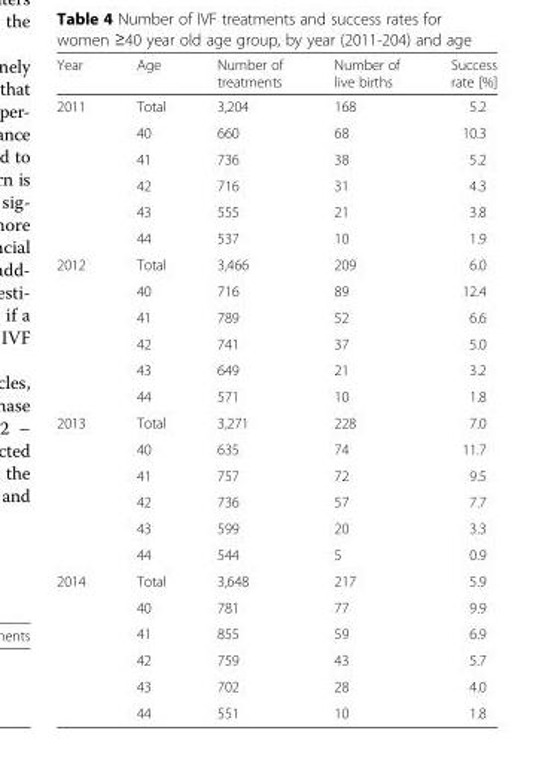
<table><thead><tr><td>Year</td><td>Age</td><td>Number of treatments</td><td>Number of live births</td><td>Success rate [%]</td></tr></thead><tbody><tr><td rowspan="6">2011</td><td>Total</td><td>3,204</td><td>168</td><td>5.2</td></tr><tr><td>40</td><td>660</td><td>68</td><td>10.3</td></tr><tr><td>41</td><td>736</td><td>38</td><td>5.2</td></tr><tr><td>42</td><td>716</td><td>31</td><td>4.3</td></tr><tr><td>43</td><td>555</td><td>21</td><td>3.8</td></tr><tr><td>44</td><td>537</td><td>10</td><td>1.9</td></tr><tr><td rowspan="6">2012</td><td>Total</td><td>3,466</td><td>209</td><td>6.0</td></tr><tr><td>40</td><td>716</td><td>89</td><td>12.4</td></tr><tr><td>41</td><td>789</td><td>52</td><td>6.6</td></tr><tr><td>42</td><td>741</td><td>37</td><td>5.0</td></tr><tr><td>43</td><td>649</td><td>21</td><td>3.2</td></tr><tr><td>44</td><td>571</td><td>10</td><td>1.8</td></tr><tr><td rowspan="6">2013</td><td>Total</td><td>3,271</td><td>228</td><td>7.0</td></tr><tr><td>40</td><td>635</td><td>74</td><td>11.7</td></tr><tr><td>41</td><td>757</td><td>72</td><td>9.5</td></tr><tr><td>42</td><td>736</td><td>57</td><td>7.7</td></tr><tr><td>43</td><td>599</td><td>20</td><td>3.3</td></tr><tr><td>44</td><td>544</td><td>5</td><td>0.9</td></tr><tr><td rowspan="6">2014</td><td>Total</td><td>3,648</td><td>217</td><td>5.9</td></tr><tr><td>40</td><td>781</td><td>77</td><td>9.9</td></tr><tr><td>41</td><td>855</td><td>59</td><td>6.9</td></tr><tr><td>42</td><td>759</td><td>43</td><td>5.7</td></tr><tr><td>43</td><td>702</td><td>28</td><td>4.0</td></tr><tr><td>44</td><td>551</td><td>10</td><td>1.8</td></tr></tbody></table>